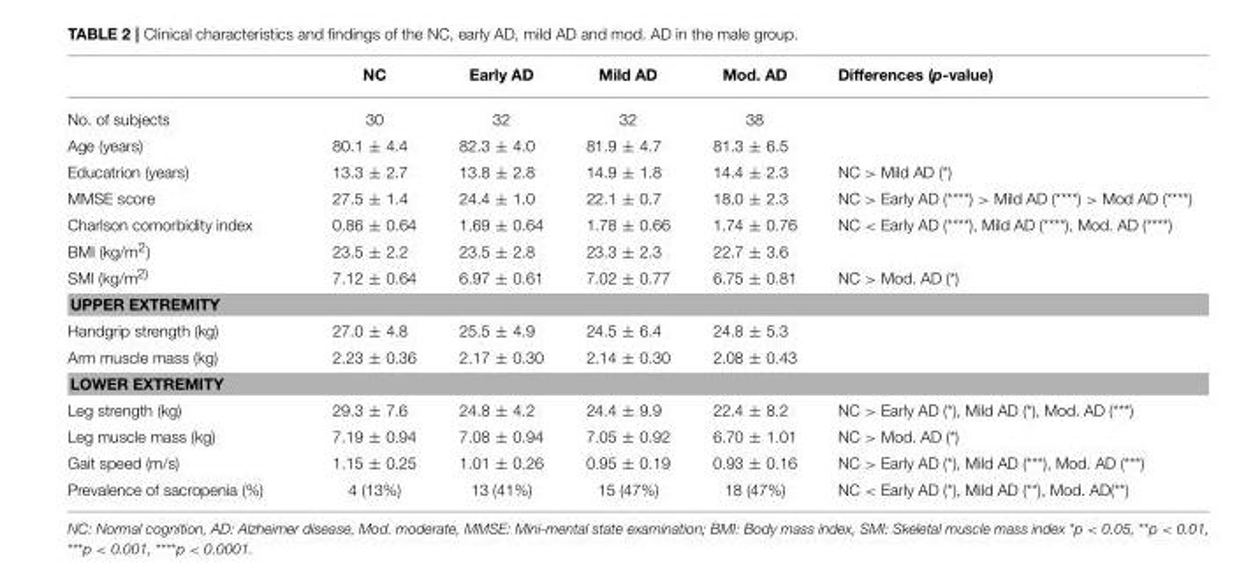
<table><thead><tr><td></td><td>NC</td><td>Early AD</td><td>Mild AD</td><td>Mod. AD</td><td>Differences (p-value)</td></tr></thead><tbody><tr><td>No. of subjects</td><td>30</td><td>32</td><td>32</td><td>38</td><td></td></tr><tr><td>Age (years)</td><td>80.1 ± 4.4</td><td>82.3 ± 4.0</td><td>81.9 ± 4.7</td><td>81.3 ± 6.5</td><td></td></tr><tr><td>Educatrion (years)</td><td>13.3 ± 2.7</td><td>13.8 ± 2.8</td><td>14.9 ± 1.8</td><td>14.4 ± 2.3</td><td>NC &gt; Mild AD (*)</td></tr><tr><td>MMSE score</td><td>27.5 ± 1.4</td><td>24.4 ± 1.0</td><td>22.1 ± 0.7</td><td>18.0 ± 2.3</td><td>NC &gt; Early AD (****) &gt; Mild AD (****) &gt; Mod AD (****)</td></tr><tr><td>Charlson comorbidity index</td><td>0.86 ± 0.64</td><td>1.69 ± 0.64</td><td>1.78 ± 0.66</td><td>1.74 ± 0.76</td><td>NC &lt; Early AD (****), Mild AD (****), Mod. AD (****)</td></tr><tr><td>BMI (kg/m<sup>2</sup>)</td><td>23.5 ± 2.2</td><td>23.5 ± 2.8</td><td>23.3 ± 2.3</td><td>22.7 ± 3.6</td><td></td></tr><tr><td>SMI (kg/m<sup>2)</sup></td><td>7.12 ± 0.64</td><td>6.97 ± 0.61</td><td>7.02 ± 0.77</td><td>6.75 ± 0.81</td><td>NC &gt; Mod. AD (*)</td></tr><tr><td colspan="6">UPPER EXTREMITY</td></tr><tr><td>Handgrip strength (kg)</td><td>27.0 ± 4.8</td><td>25.5 ± 4.9</td><td>24.5 ± 6.4</td><td>24.8 ± 5.3</td><td></td></tr><tr><td>Arm muscle mass (kg)</td><td>2.23 ± 0.36</td><td>2.17 ± 0.30</td><td>2.14 ± 0.30</td><td>2.08 ± 0.43</td><td></td></tr><tr><td colspan="6">LOWER EXTREMITY</td></tr><tr><td>Leg strength (kg)</td><td>29.3 ± 7.6</td><td>24.8 ± 4.2</td><td>24.4 ± 9.9</td><td>22.4 ± 8.2</td><td>NC &gt; Early AD (*), Mild AD (*), Mod. AD (***)</td></tr><tr><td>Leg muscle mass (kg)</td><td>7.19 ± 0.94</td><td>7.08 ± 0.94</td><td>7.05 ± 0.92</td><td>6.70 ± 1.01</td><td>NC &gt; Mod. AD (*)</td></tr><tr><td>Gait speed (m/s)</td><td>1.15 ± 0.25</td><td>1.01 ± 0.26</td><td>0.95 ± 0.19</td><td>0.93 ± 0.16</td><td>NC &gt; Early AD (*), Mild AD (***), Mod. AD (***)</td></tr><tr><td>Prevalence of sacropenia (%)</td><td>4 (13%)</td><td>13 (41%)</td><td>15 (47%)</td><td>18 (47%)</td><td>NC &lt; Early AD (*), Mild AD (**), Mod. AD(**)</td></tr></tbody></table>